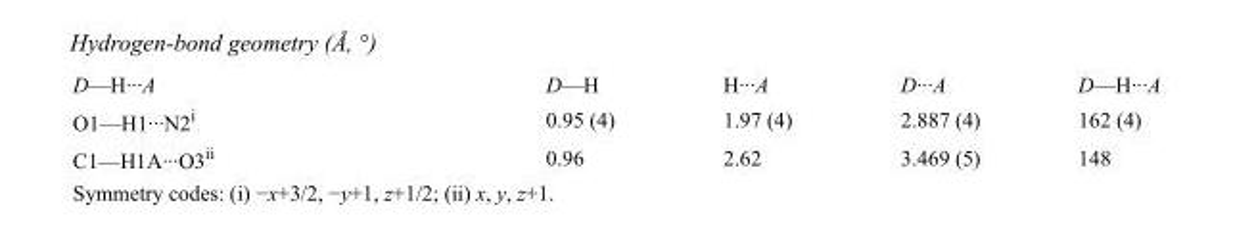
<table><tbody><tr><td>D—H···A</td><td>D—H</td><td>H···A</td><td>D···A</td><td>D—H···A</td></tr><tr><td>O1—H1···N2<sup>i</sup></td><td>0.95 (4)</td><td>1.97 (4)</td><td>2.887 (4)</td><td>162 (4)</td></tr><tr><td>C1—H1A···O3<sup>ii</sup></td><td>0.96</td><td>2.62</td><td>3.469 (5)</td><td>148</td></tr></tbody></table>